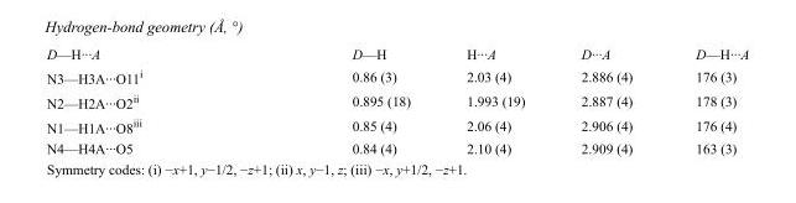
<table><tbody><tr><td>D—H···A</td><td>D—H</td><td>H···A</td><td>D···A</td><td>D—H···A</td></tr><tr><td>N3—H3A···O11<sup>i</sup></td><td>0.86 (3)</td><td>2.03 (4)</td><td>2.886 (4)</td><td>176 (3)</td></tr><tr><td>N2—H2A···O2<sup>ii</sup></td><td>0.895 (18)</td><td>1.993 (19)</td><td>2.887 (4)</td><td>178 (3)</td></tr><tr><td>N1—H1A···O8<sup>iii</sup></td><td>0.85 (4)</td><td>2.06 (4)</td><td>2.906 (4)</td><td>176 (4)</td></tr><tr><td>N4—H4A···O5</td><td>0.84 (4)</td><td>2.10 (4)</td><td>2.909 (4)</td><td>163 (3)</td></tr></tbody></table>